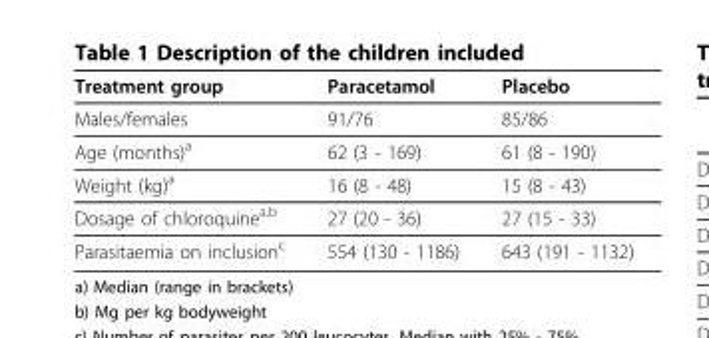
<table><thead><tr><td>Treatment group</td><td>Paracetamol</td><td>Placebo</td></tr></thead><tbody><tr><td>Males/females</td><td>91/76</td><td>85/86</td></tr><tr><td>Age (months)<sup>a</sup></td><td>62 (3 - 169)</td><td>61 (8 - 190)</td></tr><tr><td>Weight (kg)<sup>a</sup></td><td>16 (8 - 48)</td><td>15 (8 - 43)</td></tr><tr><td>Dosage of chloroquine<sup>a,b</sup></td><td>27 (20 - 36)</td><td>27 (15 - 33)</td></tr><tr><td>Parasitaemia on inclusion<sup>c</sup></td><td>554 (130 - 1186)</td><td>643 (191 - 1132)</td></tr></tbody></table>